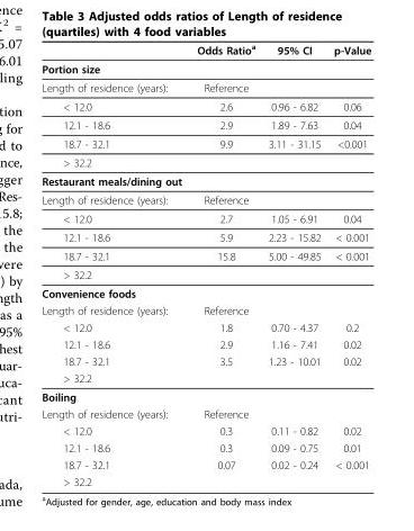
<table><thead><tr><td></td><td>Odds Ratio<sup>a</sup></td><td>95% CI</td><td>p-Value</td></tr></thead><tbody><tr><td colspan="4">Portion size</td></tr><tr><td>Length of residence (years):</td><td>Reference</td><td></td><td></td></tr><tr><td>&lt; 12.0</td><td>2.6</td><td>0.96 - 6.82</td><td>0.06</td></tr><tr><td>12.1 - 18.6</td><td>2.9</td><td>1.89 - 7.63</td><td>0.04</td></tr><tr><td>18.7 - 32.1</td><td>9.9</td><td>3.11 - 31.15</td><td>&lt;0.001</td></tr><tr><td colspan="4">&gt; 32.2</td></tr><tr><td colspan="4">Restaurant meals/dining out</td></tr><tr><td>Length of residence (years):</td><td>Reference</td><td></td><td></td></tr><tr><td>&lt; 12.0</td><td>2.7</td><td>1.05 - 6.91</td><td>0.04</td></tr><tr><td>12.1 - 18.6</td><td>5.9</td><td>2.23 - 15.82</td><td>&lt; 0.001</td></tr><tr><td>18.7 - 32.1</td><td>15.8</td><td>5.00 - 49.85</td><td>&lt; 0.001</td></tr><tr><td colspan="4">&gt; 32.2</td></tr><tr><td colspan="4">Convenience foods</td></tr><tr><td>Length of residence (years):</td><td>Reference</td><td></td><td></td></tr><tr><td>&lt; 12.0</td><td>1.8</td><td>0.70 - 4.37</td><td>0.2</td></tr><tr><td>12.1 - 18.6</td><td>2.9</td><td>1.16 - 7.41</td><td>0.02</td></tr><tr><td>18.7 - 32.1</td><td>3.5</td><td>1.23 - 10.01</td><td>0.02</td></tr><tr><td colspan="4">&gt; 32.2</td></tr><tr><td colspan="4">Boiling</td></tr><tr><td>Length of residence (years):</td><td>Reference</td><td></td><td></td></tr><tr><td>&lt; 12.0</td><td>0.3</td><td>0.11 - 0.82</td><td>0.02</td></tr><tr><td>12.1 - 18.6</td><td>0.3</td><td>0.09 - 0.75</td><td>0.01</td></tr><tr><td>18.7 - 32.1</td><td>0.07</td><td>0.02 - 0.24</td><td>&lt; 0.001</td></tr><tr><td>&gt; 32.2</td><td></td><td></td><td></td></tr></tbody></table>